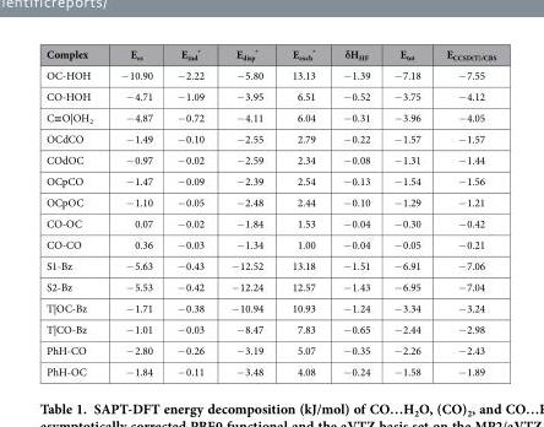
<table><thead><tr><td>Complex</td><td>E<sub>es</sub></td><td>E<sub>ind</sub> *</td><td>E<sub>disp</sub> *</td><td>E<sub>exch</sub> *</td><td>δH<sub>HF</sub></td><td>E<sub>tot</sub></td><td>E<sub>CCSD(T)/CBS</sub></td></tr></thead><tbody><tr><td>OC-HOH</td><td>− 10.90</td><td>− 2.22</td><td>− 5.80</td><td>13.13</td><td>− 1.39</td><td>− 7.18</td><td>− 7.55</td></tr><tr><td>CO-HOH</td><td>− 4.71</td><td>− 1.09</td><td>− 3.95</td><td>6.51</td><td>− 0.52</td><td>− 3.75</td><td>− 4.12</td></tr><tr><td>C≡ O|OH<sub>2</sub></td><td>− 4.87</td><td>− 0.72</td><td>− 4.11</td><td>6.04</td><td>− 0.31</td><td>− 3.96</td><td>− 4.05</td></tr><tr><td>OCdCO</td><td>− 1.49</td><td>− 0.10</td><td>− 2.55</td><td>2.79</td><td>− 0.22</td><td>− 1.57</td><td>− 1.57</td></tr><tr><td>COdOC</td><td>− 0.97</td><td>− 0.02</td><td>− 2.59</td><td>2.34</td><td>− 0.08</td><td>− 1.31</td><td>− 1.44</td></tr><tr><td>OCpCO</td><td>− 1.47</td><td>− 0.09</td><td>− 2.39</td><td>2.54</td><td>− 0.13</td><td>− 1.54</td><td>− 1.56</td></tr><tr><td>OCpOC</td><td>− 1.10</td><td>− 0.05</td><td>− 2.48</td><td>2.44</td><td>− 0.10</td><td>− 1.29</td><td>− 1.21</td></tr><tr><td>CO-OC</td><td>0.07</td><td>− 0.02</td><td>− 1.84</td><td>1.53</td><td>− 0.04</td><td>− 0.30</td><td>− 0.42</td></tr><tr><td>CO-CO</td><td>0.36</td><td>− 0.03</td><td>− 1.34</td><td>1.00</td><td>− 0.04</td><td>− 0.05</td><td>− 0.21</td></tr><tr><td>S1-Bz</td><td>− 5.63</td><td>− 0.43</td><td>− 12.52</td><td>13.18</td><td>− 1.51</td><td>− 6.91</td><td>− 7.06</td></tr><tr><td>S2-Bz</td><td>− 5.53</td><td>− 0.42</td><td>− 12.24</td><td>12.57</td><td>− 1.43</td><td>− 6.95</td><td>− 7.04</td></tr><tr><td>T|OC-Bz</td><td>− 1.71</td><td>− 0.38</td><td>− 10.94</td><td>10.93</td><td>− 1.24</td><td>− 3.34</td><td>− 3.24</td></tr><tr><td>T|CO-Bz</td><td>− 1.01</td><td>− 0.03</td><td>− 8.47</td><td>7.83</td><td>− 0.65</td><td>− 2.44</td><td>− 2.98</td></tr><tr><td>PhH-CO</td><td>− 2.80</td><td>− 0.26</td><td>− 3.19</td><td>5.07</td><td>− 0.35</td><td>− 2.26</td><td>− 2.43</td></tr><tr><td>PhH-OC</td><td>− 1.84</td><td>− 0.11</td><td>− 3.48</td><td>4.08</td><td>− 0.24</td><td>− 1.58</td><td>− 1.89</td></tr></tbody></table>